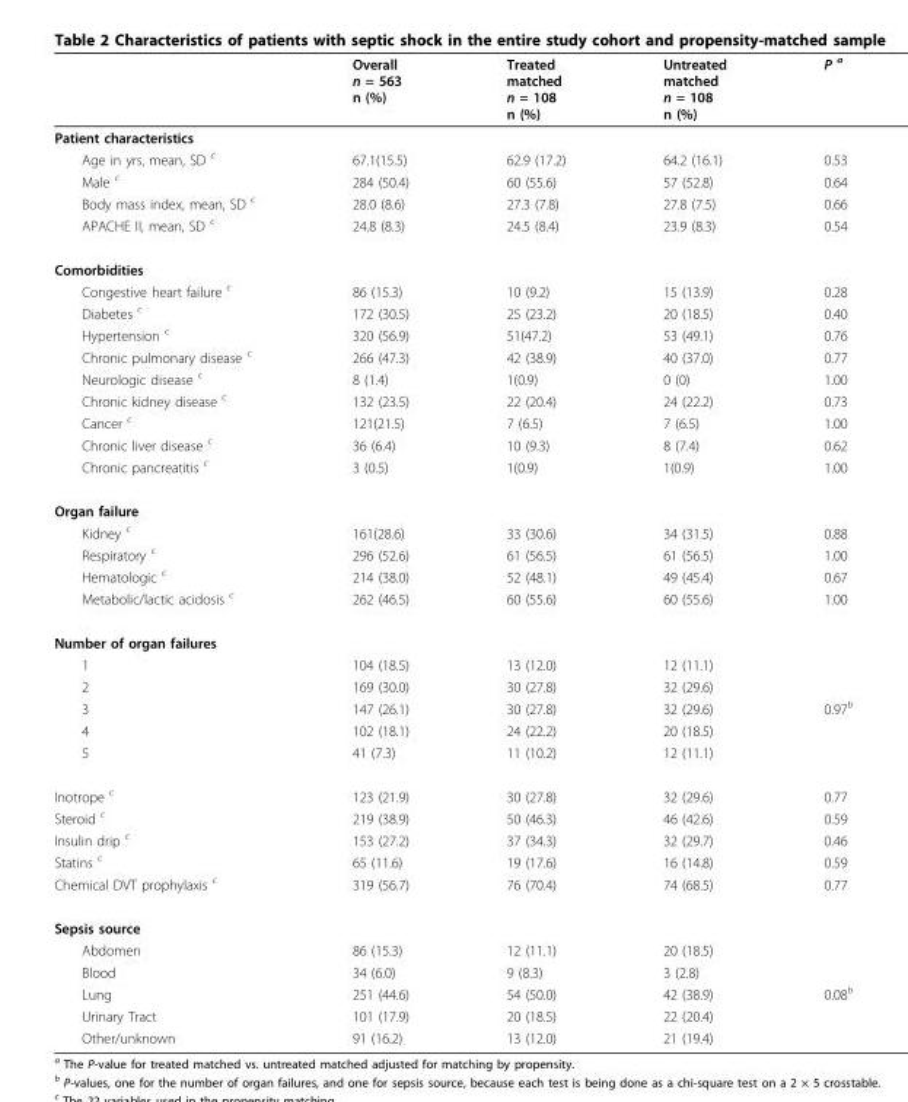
<table><thead><tr><td></td><td>Overall n = 563 n (%)</td><td>Treated matched n = 108 n (%)</td><td>Untreated matched n = 108 n (%)</td><td>P <sup>a</sup></td></tr></thead><tbody><tr><td colspan="5">Patient characteristics</td></tr><tr><td>Age in yrs, mean, SD <sup>c</sup></td><td>67.1(15.5)</td><td>62.9 (17.2)</td><td>64.2 (16.1)</td><td>0.53</td></tr><tr><td>Male <sup>c</sup></td><td>284 (50.4)</td><td>60 (55.6)</td><td>57 (52.8)</td><td>0.64</td></tr><tr><td>Body mass index, mean, SD <sup>c</sup></td><td>28.0 (8.6)</td><td>27.3 (7.8)</td><td>27.8 (7.5)</td><td>0.66</td></tr><tr><td>APACHE II, mean, SD <sup>c</sup></td><td>24.8 (8.3)</td><td>24.5 (8.4)</td><td>23.9 (8.3)</td><td>0.54</td></tr><tr><td colspan="5">Comorbidities</td></tr><tr><td>Congestive heart failure <sup>c</sup></td><td>86 (15.3)</td><td>10 (9.2)</td><td>15 (13.9)</td><td>0.28</td></tr><tr><td>Diabetes <sup>c</sup></td><td>172 (30.5)</td><td>25 (23.2)</td><td>20 (18.5)</td><td>0.40</td></tr><tr><td>Hypertension <sup>c</sup></td><td>320 (56.9)</td><td>51(47.2)</td><td>53 (49.1)</td><td>0.76</td></tr><tr><td>Chronic pulmonary disease <sup>c</sup></td><td>266 (47.3)</td><td>42 (38.9)</td><td>40 (37.0)</td><td>0.77</td></tr><tr><td>Neurologic disease <sup>c</sup></td><td>8 (1.4)</td><td>1(0.9)</td><td>0 (0)</td><td>1.00</td></tr><tr><td>Chronic kidney disease <sup>c</sup></td><td>132 (23.5)</td><td>22 (20.4)</td><td>24 (22.2)</td><td>0.73</td></tr><tr><td>Cancer <sup>c</sup></td><td>121(21.5)</td><td>7 (6.5)</td><td>7 (6.5)</td><td>1.00</td></tr><tr><td>Chronic liver disease <sup>c</sup></td><td>36 (6.4)</td><td>10 (9.3)</td><td>8 (7.4)</td><td>0.62</td></tr><tr><td>Chronic pancreatitis <sup>c</sup></td><td>3 (0.5)</td><td>1(0.9)</td><td>1(0.9)</td><td>1.00</td></tr><tr><td colspan="5">Organ failure</td></tr><tr><td>Kidney <sup>c</sup></td><td>161(28.6)</td><td>33 (30.6)</td><td>34 (31.5)</td><td>0.88</td></tr><tr><td>Respiratory <sup>c</sup></td><td>296 (52.6)</td><td>61 (56.5)</td><td>61 (56.5)</td><td>1.00</td></tr><tr><td>Hematologic <sup>c</sup></td><td>214 (38.0)</td><td>52 (48.1)</td><td>49 (45.4)</td><td>0.67</td></tr><tr><td>Metabolic/lactic acidosis <sup>c</sup></td><td>262 (46.5)</td><td>60 (55.6)</td><td>60 (55.6)</td><td>1.00</td></tr><tr><td colspan="5">Number of organ failures</td></tr><tr><td>1</td><td>104 (18.5)</td><td>13 (12.0)</td><td>12 (11.1)</td><td></td></tr><tr><td>2</td><td>169 (30.0)</td><td>30 (27.8)</td><td>32 (29.6)</td><td></td></tr><tr><td>3</td><td>147 (26.1)</td><td>30 (27.8)</td><td>32 (29.6)</td><td>0.97<sup>b</sup></td></tr><tr><td>4</td><td>102 (18.1)</td><td>24 (22.2)</td><td>20 (18.5)</td><td></td></tr><tr><td>5</td><td>41 (7.3)</td><td>11 (10.2)</td><td>12 (11.1)</td><td></td></tr><tr><td>Inotrope <sup>c</sup></td><td>123 (21.9)</td><td>30 (27.8)</td><td>32 (29.6)</td><td>0.77</td></tr><tr><td>Steroid <sup>c</sup></td><td>219 (38.9)</td><td>50 (46.3)</td><td>46 (42.6)</td><td>0.59</td></tr><tr><td>Insulin drip <sup>c</sup></td><td>153 (27.2)</td><td>37 (34.3)</td><td>32 (29.7)</td><td>0.46</td></tr><tr><td>Statins <sup>c</sup></td><td>65 (11.6)</td><td>19 (17.6)</td><td>16 (14.8)</td><td>0.59</td></tr><tr><td>Chemical DVT prophylaxis <sup>c</sup></td><td>319 (56.7)</td><td>76 (70.4)</td><td>74 (68.5)</td><td>0.77</td></tr><tr><td colspan="5">Sepsis source</td></tr><tr><td>Abdomen</td><td>86 (15.3)</td><td>12 (11.1)</td><td>20 (18.5)</td><td></td></tr><tr><td>Blood</td><td>34 (6.0)</td><td>9 (8.3)</td><td>3 (2.8)</td><td></td></tr><tr><td>Lung</td><td>251 (44.6)</td><td>54 (50.0)</td><td>42 (38.9)</td><td>0.08<sup>b</sup></td></tr><tr><td>Urinary Tract</td><td>101 (17.9)</td><td>20 (18.5)</td><td>22 (20.4)</td><td></td></tr><tr><td>Other/unknown</td><td>91 (16.2)</td><td>13 (12.0)</td><td>21 (19.4)</td><td></td></tr></tbody></table>